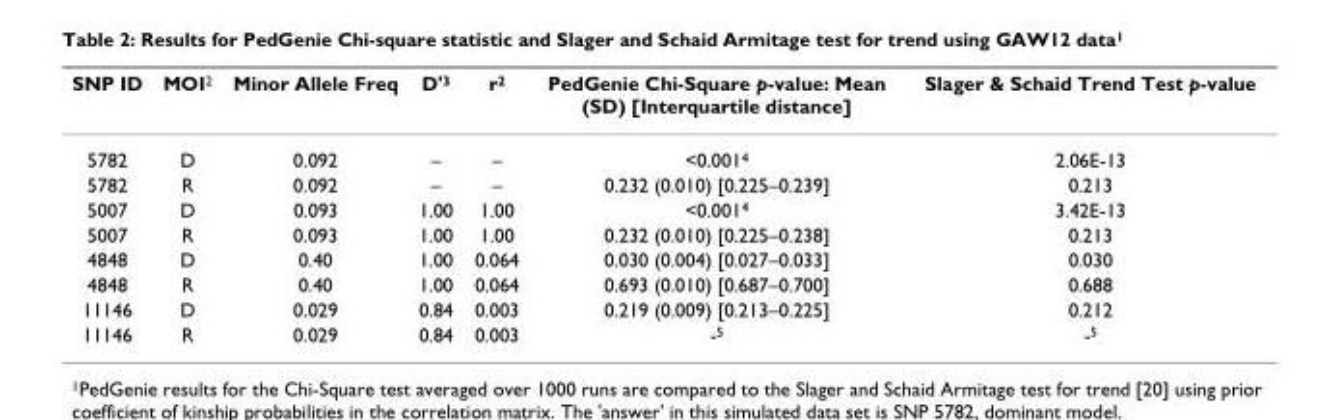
<table><thead><tr><td>SNP ID</td><td>MOI2</td><td>Minor Allele Freq</td><td>D&#x27;3</td><td>r2</td><td>PedGenie Chi-Square p-value: Mean (SD) [Interquartile distance]</td><td>Slager &amp; Schaid Trend Test p-value</td></tr></thead><tbody><tr><td>5782</td><td>D</td><td>0.092</td><td>–</td><td>–</td><td>&lt;0.0014</td><td>2.06E-13</td></tr><tr><td>5782</td><td>R</td><td>0.092</td><td>–</td><td>–</td><td>0.232 (0.010) [0.225–0.239]</td><td>0.213</td></tr><tr><td>5007</td><td>D</td><td>0.093</td><td>1.00</td><td>1.00</td><td>&lt;0.0014</td><td>3.42E-13</td></tr><tr><td>5007</td><td>R</td><td>0.093</td><td>1.00</td><td>1.00</td><td>0.232 (0.010) [0.225–0.238]</td><td>0.213</td></tr><tr><td>4848</td><td>D</td><td>0.40</td><td>1.00</td><td>0.064</td><td>0.030 (0.004) [0.027–0.033]</td><td>0.030</td></tr><tr><td>4848</td><td>R</td><td>0.40</td><td>1.00</td><td>0.064</td><td>0.693 (0.010) [0.687–0.700]</td><td>0.688</td></tr><tr><td>11146</td><td>D</td><td>0.029</td><td>0.84</td><td>0.003</td><td>0.219 (0.009) [0.213–0.225]</td><td>0.212</td></tr><tr><td>11146</td><td>R</td><td>0.029</td><td>0.84</td><td>0.003</td><td>-5</td><td>-5</td></tr></tbody></table>